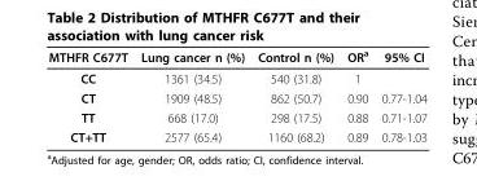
<table><thead><tr><td>MTHFR C677T</td><td>Lung cancer n (%)</td><td>Control n (%)</td><td>OR<sup>a</sup></td><td>95% CI</td></tr></thead><tbody><tr><td>CC</td><td>1361 (34.5)</td><td>540 (31.8)</td><td>1</td><td></td></tr><tr><td>CT</td><td>1909 (48.5)</td><td>862 (50.7)</td><td>0.90</td><td>0.77-1.04</td></tr><tr><td>TT</td><td>668 (17.0)</td><td>298 (17.5)</td><td>0.88</td><td>0.71-1.07</td></tr><tr><td>CT+TT</td><td>2577 (65.4)</td><td>1160 (68.2)</td><td>0.89</td><td>0.78-1.03</td></tr></tbody></table>